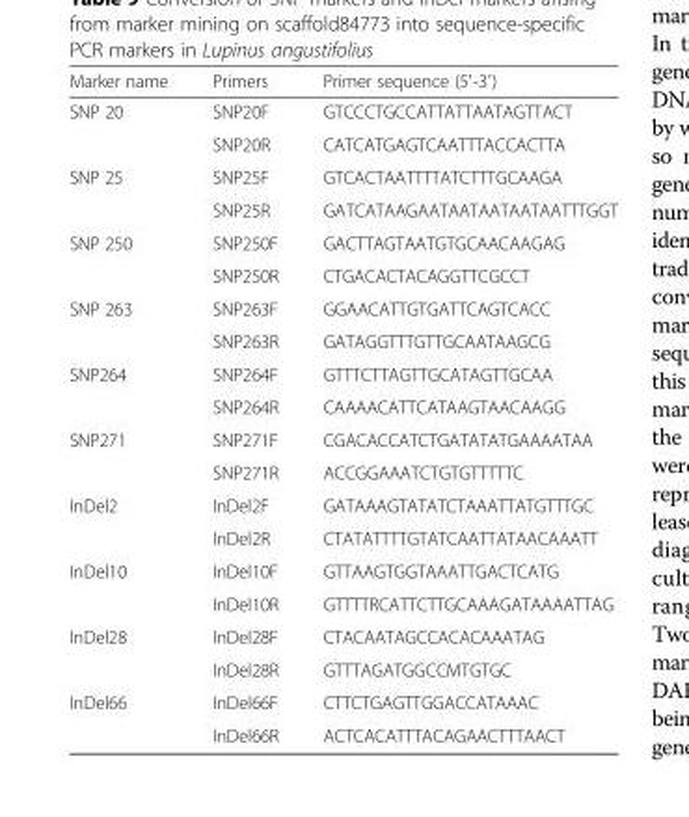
<table><thead><tr><td>Marker name</td><td>Primers</td><td>Primer sequence (5′-3′)</td></tr></thead><tbody><tr><td rowspan="2">SNP 20</td><td>SNP20F</td><td>GTCCCTGCCATTATTAATAGTTACT</td></tr><tr><td>SNP20R</td><td>CATCATGAGTCAATTTACCACTTA</td></tr><tr><td rowspan="2">SNP 25</td><td>SNP25F</td><td>GTCACTAATTTTATCTTTGCAAGA</td></tr><tr><td>SNP25R</td><td>GATCATAAGAATAATAATAATAATTTGGT</td></tr><tr><td rowspan="2">SNP 250</td><td>SNP250F</td><td>GACTTAGTAATGTGCAACAAGAG</td></tr><tr><td>SNP250R</td><td>CTGACACTACAGGTTCGCCT</td></tr><tr><td rowspan="2">SNP 263</td><td>SNP263F</td><td>GGAACATTGTGATTCAGTCACC</td></tr><tr><td>SNP263R</td><td>GATAGGTTTGTTGCAATAAGCG</td></tr><tr><td rowspan="2">SNP264</td><td>SNP264F</td><td>GTTTCTTAGTTGCATAGTTGCAA</td></tr><tr><td>SNP264R</td><td>CAAAACATTCATAAGTAACAAGG</td></tr><tr><td rowspan="2">SNP271</td><td>SNP271F</td><td>CGACACCATCTGATATATGAAAATAA</td></tr><tr><td>SNP271R</td><td>ACCGGAAATCTGTGTTTTTC</td></tr><tr><td rowspan="2">InDel2</td><td>InDel2F</td><td>GATAAAGTATATCTAAATTATGTTTGC</td></tr><tr><td>InDel2R</td><td>CTATATTTTGTATCAATTATAACAAATT</td></tr><tr><td rowspan="2">InDel10</td><td>InDel10F</td><td>GTTAAGTGGTAAATTGACTCATG</td></tr><tr><td>InDel10R</td><td>GTTTTRCATTCTTGCAAAGATAAAATTAG</td></tr><tr><td rowspan="2">InDel28</td><td>InDel28F</td><td>CTACAATAGCCACACAAATAG</td></tr><tr><td>InDel28R</td><td>GTTTAGATGGCCMTGTGC</td></tr><tr><td rowspan="2">InDel66</td><td>InDel66F</td><td>CTTCTGAGTTGGACCATAAAC</td></tr><tr><td>InDel66R</td><td>ACTCACATTTACAGAACTTTAACT</td></tr></tbody></table>